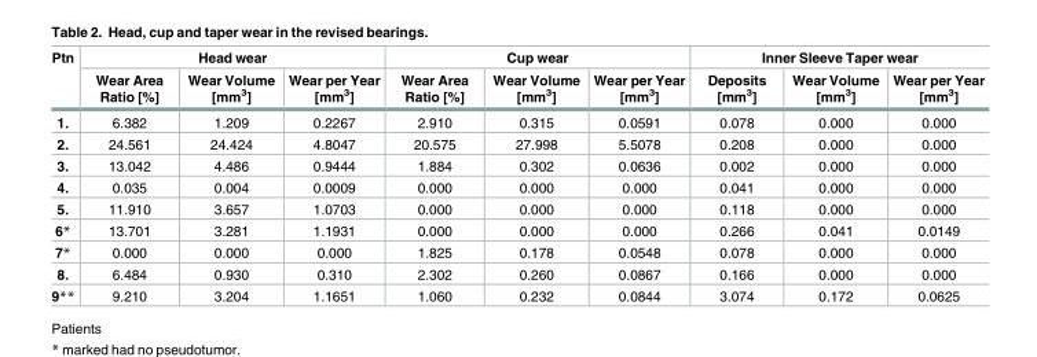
<table><thead><tr><td rowspan="2">Ptn</td><td colspan="3">Head wear</td><td colspan="3">Cup wear</td><td colspan="3">Inner Sleeve Taper wear</td></tr><tr><td>Wear Area Ratio [%]</td><td>Wear Volume [mm<sup>3</sup>]</td><td>Wear per Year [mm<sup>3</sup>]</td><td>Wear Area Ratio [%]</td><td>Wear Volume [mm<sup>3</sup>]</td><td>Wear per Year [mm<sup>3</sup>]</td><td>Deposits [mm<sup>3</sup>]</td><td>Wear Volume [mm<sup>3</sup>]</td><td>Wear per Year [mm<sup>3</sup>]</td></tr></thead><tbody><tr><td>1.</td><td>6.382</td><td>1.209</td><td>0.2267</td><td>2.910</td><td>0.315</td><td>0.0591</td><td>0.078</td><td>0.000</td><td>0.000</td></tr><tr><td>2.</td><td>24.561</td><td>24.424</td><td>4.8047</td><td>20.575</td><td>27.998</td><td>5.5078</td><td>0.208</td><td>0.000</td><td>0.000</td></tr><tr><td>3.</td><td>13.042</td><td>4.486</td><td>0.9444</td><td>1.884</td><td>0.302</td><td>0.0636</td><td>0.002</td><td>0.000</td><td>0.000</td></tr><tr><td>4.</td><td>0.035</td><td>0.004</td><td>0.0009</td><td>0.000</td><td>0.000</td><td>0.000</td><td>0.041</td><td>0.000</td><td>0.000</td></tr><tr><td>5.</td><td>11.910</td><td>3.657</td><td>1.0703</td><td>0.000</td><td>0.000</td><td>0.000</td><td>0.118</td><td>0.000</td><td>0.000</td></tr><tr><td>6*</td><td>13.701</td><td>3.281</td><td>1.1931</td><td>0.000</td><td>0.000</td><td>0.000</td><td>0.266</td><td>0.041</td><td>0.0149</td></tr><tr><td>7*</td><td>0.000</td><td>0.000</td><td>0.000</td><td>1.825</td><td>0.178</td><td>0.0548</td><td>0.078</td><td>0.000</td><td>0.000</td></tr><tr><td>8.</td><td>6.484</td><td>0.930</td><td>0.310</td><td>2.302</td><td>0.260</td><td>0.0867</td><td>0.166</td><td>0.000</td><td>0.000</td></tr><tr><td>9**</td><td>9.210</td><td>3.204</td><td>1.1651</td><td>1.060</td><td>0.232</td><td>0.0844</td><td>3.074</td><td>0.172</td><td>0.0625</td></tr></tbody></table>